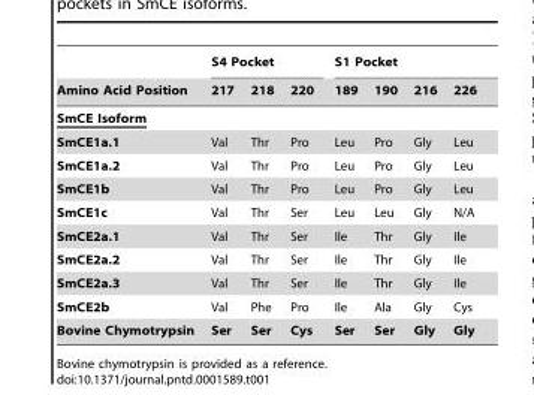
<table><thead><tr><td rowspan="2">Amino Acid Position</td><td colspan="3">S4 Pocket</td><td colspan="4">S1 Pocket</td></tr><tr><td>217</td><td>218</td><td>220</td><td>189</td><td>190</td><td>216</td><td>226</td></tr></thead><tbody><tr><td colspan="8">SmCE Isoform</td></tr><tr><td>SmCE1a.1</td><td>Val</td><td>Thr</td><td>Pro</td><td>Leu</td><td>Pro</td><td>Gly</td><td>Leu</td></tr><tr><td>SmCE1a.2</td><td>Val</td><td>Thr</td><td>Pro</td><td>Leu</td><td>Pro</td><td>Gly</td><td>Leu</td></tr><tr><td>SmCE1b</td><td>Val</td><td>Thr</td><td>Pro</td><td>Leu</td><td>Pro</td><td>Gly</td><td>Leu</td></tr><tr><td>SmCE1c</td><td>Val</td><td>Thr</td><td>Ser</td><td>Leu</td><td>Leu</td><td>Gly</td><td>N/A</td></tr><tr><td>SmCE2a.1</td><td>Val</td><td>Thr</td><td>Ser</td><td>Ile</td><td>Thr</td><td>Gly</td><td>Ile</td></tr><tr><td>SmCE2a.2</td><td>Val</td><td>Thr</td><td>Ser</td><td>Ile</td><td>Thr</td><td>Gly</td><td>Ile</td></tr><tr><td>SmCE2a.3</td><td>Val</td><td>Thr</td><td>Ser</td><td>Ile</td><td>Thr</td><td>Gly</td><td>Ile</td></tr><tr><td>SmCE2b</td><td>Val</td><td>Phe</td><td>Pro</td><td>Ile</td><td>Ala</td><td>Gly</td><td>Cys</td></tr><tr><td>Bovine Chymotrypsin</td><td>Ser</td><td>Ser</td><td>Cys</td><td>Ser</td><td>Ser</td><td>Gly</td><td>Gly</td></tr></tbody></table>